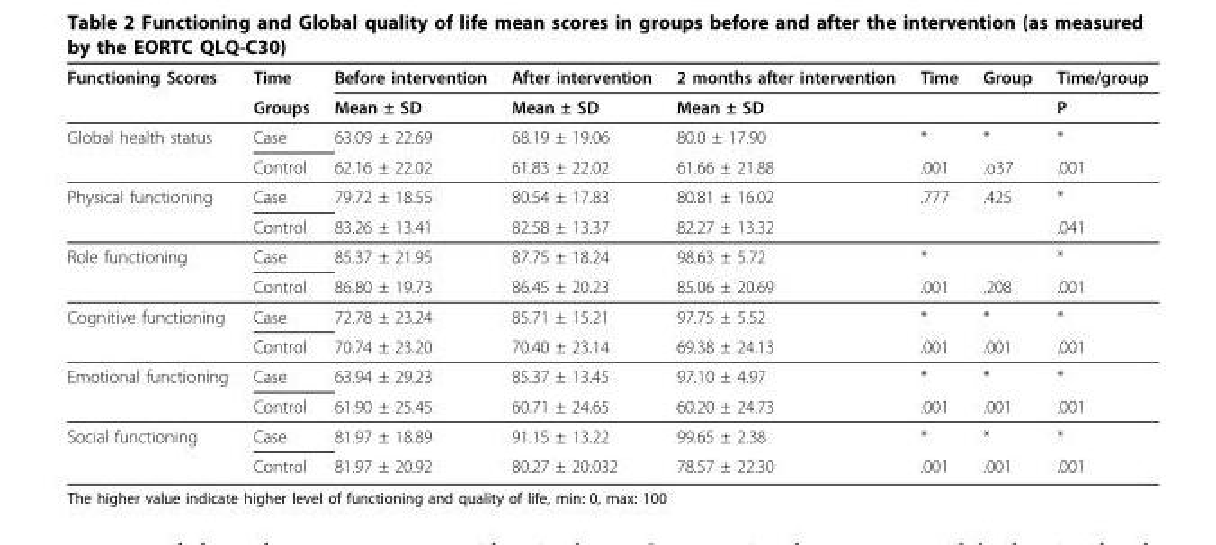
<table><thead><tr><td rowspan="2">Functioning Scores</td><td rowspan="2">Time Groups</td><td rowspan="2">Before intervention Mean ± SD</td><td rowspan="2">After intervention Mean ± SD</td><td rowspan="2">2 months after intervention Mean ± SD</td><td rowspan="2">Time</td><td rowspan="2">Group</td><td rowspan="2">Time/group P</td></tr><tr></tr></thead><tbody><tr><td rowspan="2">Global health status</td><td>Case</td><td>63.09 ± 22.69</td><td>68.19 ± 19.06</td><td>80.0 ± 17.90</td><td>*</td><td>*</td><td>*</td></tr><tr><td>Control</td><td>62.16 ± 22.02</td><td>61.83 ± 22.02</td><td>61.66 ± 21.88</td><td>.001</td><td>.o37</td><td>.001</td></tr><tr><td rowspan="2">Physical functioning</td><td>Case</td><td>79.72 ± 18.55</td><td>80.54 ± 17.83</td><td>80.81 ± 16.02</td><td>.777</td><td>.425</td><td>*</td></tr><tr><td>Control</td><td>83.26 ± 13.41</td><td>82.58 ± 13.37</td><td>82.27 ± 13.32</td><td></td><td></td><td>.041</td></tr><tr><td rowspan="2">Role functioning</td><td>Case</td><td>85.37 ± 21.95</td><td>87.75 ± 18.24</td><td>98.63 ± 5.72</td><td>*</td><td></td><td>*</td></tr><tr><td>Control</td><td>86.80 ± 19.73</td><td>86.45 ± 20.23</td><td>85.06 ± 20.69</td><td>.001</td><td>.208</td><td>.001</td></tr><tr><td rowspan="2">Cognitive functioning</td><td>Case</td><td>72.78 ± 23.24</td><td>85.71 ± 15.21</td><td>97.75 ± 5.52</td><td>*</td><td>*</td><td>*</td></tr><tr><td>Control</td><td>70.74 ± 23.20</td><td>70.40 ± 23.14</td><td>69.38 ± 24.13</td><td>.001</td><td>.001</td><td>.001</td></tr><tr><td rowspan="2">Emotional functioning</td><td>Case</td><td>63.94 ± 29.23</td><td>85.37 ± 13.45</td><td>97.10 ± 4.97</td><td>*</td><td>*</td><td>*</td></tr><tr><td>Control</td><td>61.90 ± 25.45</td><td>60.71 ± 24.65</td><td>60.20 ± 24.73</td><td>.001</td><td>.001</td><td>.001</td></tr><tr><td rowspan="2">Social functioning</td><td>Case</td><td>81.97 ± 18.89</td><td>91.15 ± 13.22</td><td>99.65 ± 2.38</td><td>*</td><td>*</td><td>*</td></tr><tr><td>Control</td><td>81.97 ± 20.92</td><td>80.27 ± 20.032</td><td>78.57 ± 22.30</td><td>.001</td><td>.001</td><td>.001</td></tr></tbody></table>